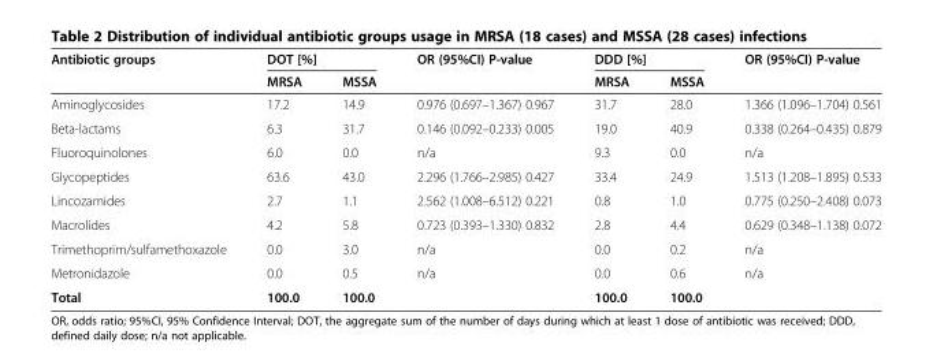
<table><thead><tr><td rowspan="2">Antibiotic groups</td><td colspan="2">DOT [%]</td><td rowspan="2">OR (95%CI) P-value</td><td colspan="2">DDD [%]</td><td rowspan="2">OR (95%CI) P-value</td></tr><tr><td>MRSA</td><td>MSSA</td><td>MRSA</td><td>MSSA</td></tr></thead><tbody><tr><td>Aminoglycosides</td><td>17.2</td><td>14.9</td><td>0.976 (0.697–1.367) 0.967</td><td>31.7</td><td>28.0</td><td>1.366 (1.096–1.704) 0.561</td></tr><tr><td>Beta-lactams</td><td>6.3</td><td>31.7</td><td>0.146 (0.092–0.233) 0.005</td><td>19.0</td><td>40.9</td><td>0.338 (0.264–0.435) 0.879</td></tr><tr><td>Fluoroquinolones</td><td>6.0</td><td>0.0</td><td>n/a</td><td>9.3</td><td>0.0</td><td>n/a</td></tr><tr><td>Glycopeptides</td><td>63.6</td><td>43.0</td><td>2.296 (1.766–2.985) 0.427</td><td>33.4</td><td>24.9</td><td>1.513 (1.208–1.895) 0.533</td></tr><tr><td>Lincozamides</td><td>2.7</td><td>1.1</td><td>2.562 (1.008–6.512) 0.221</td><td>0.8</td><td>1.0</td><td>0.775 (0.250–2.408) 0.073</td></tr><tr><td>Macrolides</td><td>4.2</td><td>5.8</td><td>0.723 (0.393–1.330) 0.832</td><td>2.8</td><td>4.4</td><td>0.629 (0.348–1.138) 0.072</td></tr><tr><td>Trimethoprim/sulfamethoxazole</td><td>0.0</td><td>3.0</td><td>n/a</td><td>0.0</td><td>0.2</td><td>n/a</td></tr><tr><td>Metronidazole</td><td>0.0</td><td>0.5</td><td>n/a</td><td>0.0</td><td>0.6</td><td>n/a</td></tr><tr><td>Total</td><td>100.0</td><td>100.0</td><td></td><td>100.0</td><td>100.0</td><td></td></tr></tbody></table>